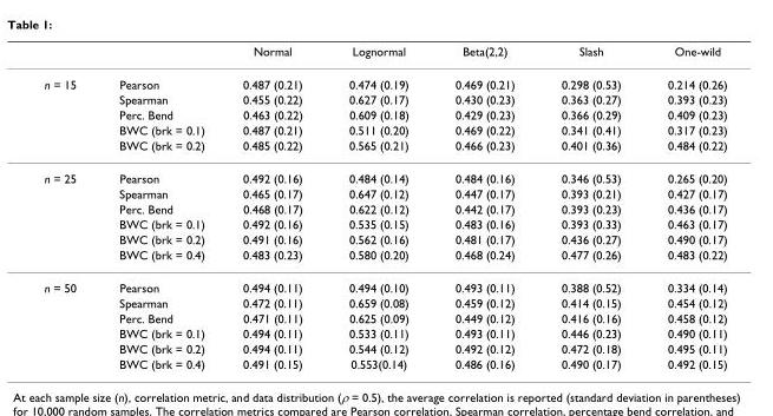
<table><thead><tr><td></td><td></td><td>Normal</td><td>Lognormal</td><td>Beta(2,2)</td><td>Slash</td><td>One-wild</td></tr></thead><tbody><tr><td rowspan="5">n = 15</td><td>Pearson</td><td>0.487 (0.21)</td><td>0.474 (0.19)</td><td>0.469 (0.21)</td><td>0.298 (0.53)</td><td>0.214 (0.26)</td></tr><tr><td>Spearman</td><td>0.455 (0.22)</td><td>0.627 (0.17)</td><td>0.430 (0.23)</td><td>0.363 (0.27)</td><td>0.393 (0.23)</td></tr><tr><td>Perc. Bend</td><td>0.463 (0.22)</td><td>0.609 (0.18)</td><td>0.429 (0.23)</td><td>0.366 (0.29)</td><td>0.409 (0.23)</td></tr><tr><td>BWC (brk = 0.1)</td><td>0.487 (0.21)</td><td>0.511 (0.20)</td><td>0.469 (0.22)</td><td>0.341 (0.41)</td><td>0.317 (0.23)</td></tr><tr><td>BWC (brk = 0.2)</td><td>0.485 (0.22)</td><td>0.565 (0.21)</td><td>0.466 (0.23)</td><td>0.401 (0.36)</td><td>0.484 (0.22)</td></tr><tr><td rowspan="6">n = 25</td><td>Pearson</td><td>0.492 (0.16)</td><td>0.484 (0.14)</td><td>0.484 (0.16)</td><td>0.346 (0.53)</td><td>0.265 (0.20)</td></tr><tr><td>Spearman</td><td>0.465 (0.17)</td><td>0.647 (0.12)</td><td>0.447 (0.17)</td><td>0.393 (0.21)</td><td>0.427 (0.17)</td></tr><tr><td>Perc. Bend</td><td>0.468 (0.17)</td><td>0.622 (0.12)</td><td>0.442 (0.17)</td><td>0.393 (0.23)</td><td>0.436 (0.17)</td></tr><tr><td>BWC (brk = 0.1)</td><td>0.492 (0.16)</td><td>0.535 (0.15)</td><td>0.483 (0.16)</td><td>0.393 (0.33)</td><td>0.463 (0.17)</td></tr><tr><td>BWC (brk = 0.2)</td><td>0.491 (0.16)</td><td>0.562 (0.16)</td><td>0.481 (0.17)</td><td>0.436 (0.27)</td><td>0.490 (0.17)</td></tr><tr><td>BWC (brk = 0.4)</td><td>0.483 (0.23)</td><td>0.580 (0.20)</td><td>0.468 (0.24)</td><td>0.477 (0.26)</td><td>0.483 (0.22)</td></tr><tr><td rowspan="6">n = 50</td><td>Pearson</td><td>0.494 (0.11)</td><td>0.494 (0.10)</td><td>0.493 (0.11)</td><td>0.388 (0.52)</td><td>0.334 (0.14)</td></tr><tr><td>Spearman</td><td>0.472 (0.11)</td><td>0.659 (0.08)</td><td>0.459 (0.12)</td><td>0.414 (0.15)</td><td>0.454 (0.12)</td></tr><tr><td>Perc. Bend</td><td>0.471 (0.11)</td><td>0.625 (0.09)</td><td>0.449 (0.12)</td><td>0.416 (0.16)</td><td>0.458 (0.12)</td></tr><tr><td>BWC (brk = 0.1)</td><td>0.494 (0.11)</td><td>0.533 (0.11)</td><td>0.493 (0.11)</td><td>0.446 (0.23)</td><td>0.490 (0.11)</td></tr><tr><td>BWC (brk = 0.2)</td><td>0.494 (0.11)</td><td>0.544 (0.12)</td><td>0.492 (0.12)</td><td>0.472 (0.18)</td><td>0.495 (0.11)</td></tr><tr><td>BWC (brk = 0.4)</td><td>0.491 (0.15)</td><td>0.553(0.14)</td><td>0.486 (0.16)</td><td>0.490 (0.17)</td><td>0.492 (0.15)</td></tr></tbody></table>